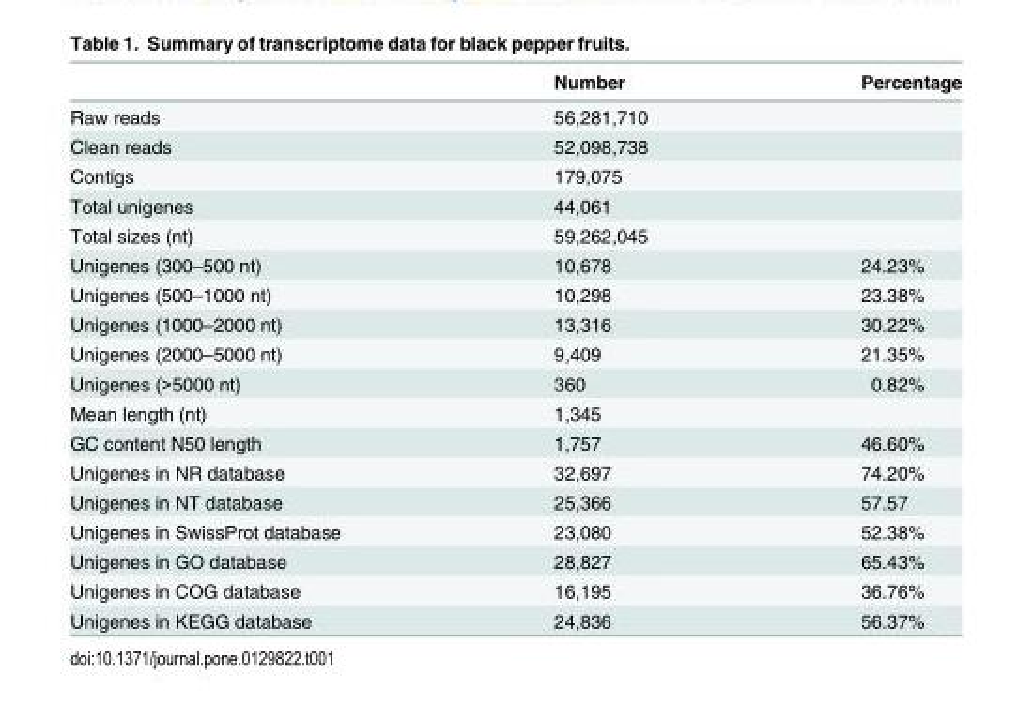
<table><thead><tr><td></td><td>Number</td><td>Percentage</td></tr></thead><tbody><tr><td>Raw reads</td><td>56,281,710</td><td></td></tr><tr><td>Clean reads</td><td>52,098,738</td><td></td></tr><tr><td>Contigs</td><td>179,075</td><td></td></tr><tr><td>Total unigenes</td><td>44,061</td><td></td></tr><tr><td>Total sizes (nt)</td><td>59,262,045</td><td></td></tr><tr><td>Unigenes (300–500 nt)</td><td>10,678</td><td>24.23%</td></tr><tr><td>Unigenes (500–1000 nt)</td><td>10,298</td><td>23.38%</td></tr><tr><td>Unigenes (1000–2000 nt)</td><td>13,316</td><td>30.22%</td></tr><tr><td>Unigenes (2000–5000 nt)</td><td>9,409</td><td>21.35%</td></tr><tr><td>Unigenes (&gt;5000 nt)</td><td>360</td><td>0.82%</td></tr><tr><td>Mean length (nt)</td><td>1,345</td><td></td></tr><tr><td>GC content N50 length</td><td>1,757</td><td>46.60%</td></tr><tr><td>Unigenes in NR database</td><td>32,697</td><td>74.20%</td></tr><tr><td>Unigenes in NT database</td><td>25,366</td><td>57.57</td></tr><tr><td>Unigenes in SwissProt database</td><td>23,080</td><td>52.38%</td></tr><tr><td>Unigenes in GO database</td><td>28,827</td><td>65.43%</td></tr><tr><td>Unigenes in COG database</td><td>16,195</td><td>36.76%</td></tr><tr><td>Unigenes in KEGG database</td><td>24,836</td><td>56.37%</td></tr></tbody></table>